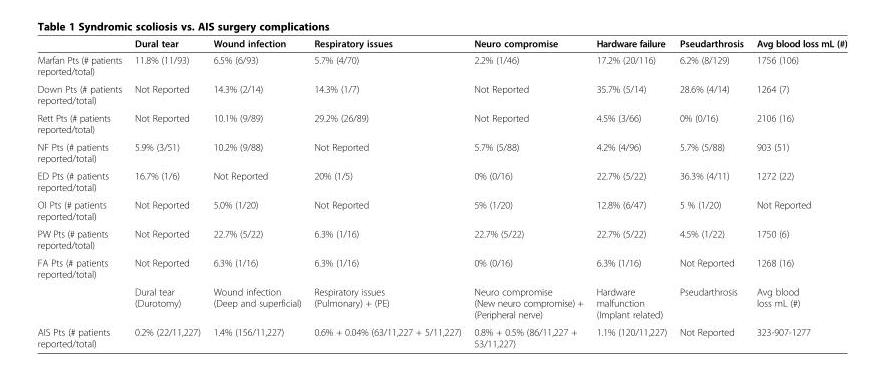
<table><thead><tr><td></td><td>Dural tear</td><td>Wound infection</td><td>Respiratory issues</td><td>Neuro compromise</td><td>Hardware failure</td><td>Pseudarthrosis</td><td>Avg blood loss mL (#)</td></tr></thead><tbody><tr><td>Marfan Pts (# patients reported/total)</td><td>11.8% (11/93)</td><td>6.5% (6/93)</td><td>5.7% (4/70)</td><td>2.2% (1/46)</td><td>17.2% (20/116)</td><td>6.2% (8/129)</td><td>1756 (106)</td></tr><tr><td>Down Pts (# patients reported/total)</td><td>Not Reported</td><td>14.3% (2/14)</td><td>14.3% (1/7)</td><td>Not Reported</td><td>35.7% (5/14)</td><td>28.6% (4/14)</td><td>1264 (7)</td></tr><tr><td>Rett Pts (# patients reported/total)</td><td>Not Reported</td><td>10.1% (9/89)</td><td>29.2% (26/89)</td><td>Not Reported</td><td>4.5% (3/66)</td><td>0% (0/16)</td><td>2106 (16)</td></tr><tr><td>NF Pts (# patients reported/total)</td><td>5.9% (3/51)</td><td>10.2% (9/88)</td><td>Not Reported</td><td>5.7% (5/88)</td><td>4.2% (4/96)</td><td>5.7% (5/88)</td><td>903 (51)</td></tr><tr><td>ED Pts (# patients reported/total)</td><td>16.7% (1/6)</td><td>Not Reported</td><td>20% (1/5)</td><td>0% (0/16)</td><td>22.7% (5/22)</td><td>36.3% (4/11)</td><td>1272 (22)</td></tr><tr><td>OI Pts (# patients reported/total)</td><td>Not Reported</td><td>5.0% (1/20)</td><td>Not Reported</td><td>5% (1/20)</td><td>12.8% (6/47)</td><td>5 % (1/20)</td><td>Not Reported</td></tr><tr><td>PW Pts (# patients reported/total)</td><td>Not Reported</td><td>22.7% (5/22)</td><td>6.3% (1/16)</td><td>22.7% (5/22)</td><td>22.7% (5/22)</td><td>4.5% (1/22)</td><td>1750 (6)</td></tr><tr><td rowspan="2">FA Pts (# patients reported/total)</td><td>Not Reported</td><td>6.3% (1/16)</td><td>6.3% (1/16)</td><td>0% (0/16)</td><td>6.3% (1/16)</td><td>Not Reported</td><td>1268 (16)</td></tr><tr><td>Dural tear (Durotomy)</td><td>Wound infection (Deep and superficial)</td><td>Respiratory issues (Pulmonary) + (PE)</td><td>Neuro compromise (New neuro compromise) + (Peripheral nerve)</td><td>Hardware malfunction (Implant related)</td><td>Pseudarthrosis</td><td>Avg blood loss mL (#)</td></tr><tr><td>AIS Pts (# patients reported/total)</td><td>0.2% (22/11,227)</td><td>1.4% (156/11,227)</td><td>0.6% + 0.04% (63/11,227 + 5/11,227)</td><td>0.8% + 0.5% (86/11,227 + 53/11,227)</td><td>1.1% (120/11,227)</td><td>Not Reported</td><td>323-907-1277</td></tr></tbody></table>